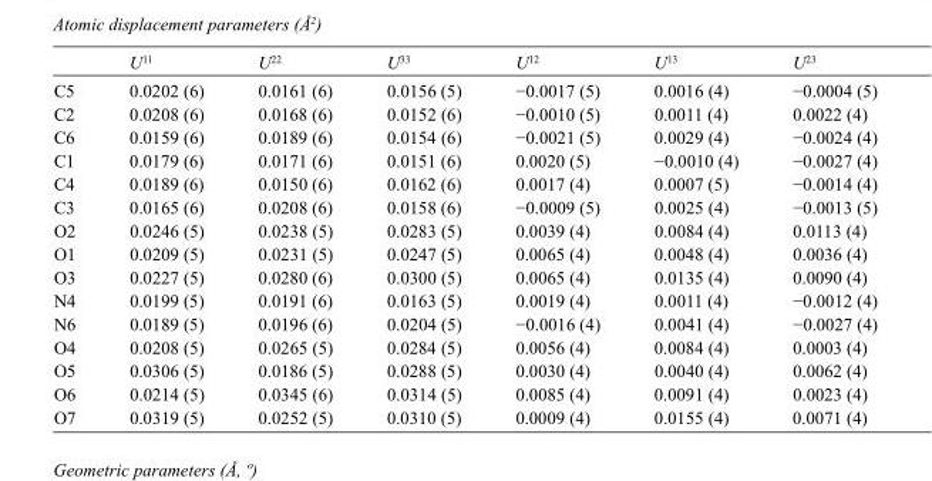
<table><thead><tr><td></td><td>U<sup>11</sup></td><td>U<sup>22</sup></td><td>U<sup>33</sup></td><td>U<sup>12</sup></td><td>U<sup>13</sup></td><td>U<sup>23</sup></td></tr></thead><tbody><tr><td>C5</td><td>0.0202 (6)</td><td>0.0161 (6)</td><td>0.0156 (5)</td><td>−0.0017 (5)</td><td>0.0016 (4)</td><td>−0.0004 (5)</td></tr><tr><td>C2</td><td>0.0208 (6)</td><td>0.0168 (6)</td><td>0.0152 (6)</td><td>−0.0010 (5)</td><td>0.0011 (4)</td><td>0.0022 (4)</td></tr><tr><td>C6</td><td>0.0159 (6)</td><td>0.0189 (6)</td><td>0.0154 (6)</td><td>−0.0021 (5)</td><td>0.0029 (4)</td><td>−0.0024 (4)</td></tr><tr><td>C1</td><td>0.0179 (6)</td><td>0.0171 (6)</td><td>0.0151 (6)</td><td>0.0020 (5)</td><td>−0.0010 (4)</td><td>−0.0027 (4)</td></tr><tr><td>C4</td><td>0.0189 (6)</td><td>0.0150 (6)</td><td>0.0162 (6)</td><td>0.0017 (4)</td><td>0.0007 (5)</td><td>−0.0014 (4)</td></tr><tr><td>C3</td><td>0.0165 (6)</td><td>0.0208 (6)</td><td>0.0158 (6)</td><td>−0.0009 (5)</td><td>0.0025 (4)</td><td>−0.0013 (5)</td></tr><tr><td>O2</td><td>0.0246 (5)</td><td>0.0238 (5)</td><td>0.0283 (5)</td><td>0.0039 (4)</td><td>0.0084 (4)</td><td>0.0113 (4)</td></tr><tr><td>O1</td><td>0.0209 (5)</td><td>0.0231 (5)</td><td>0.0247 (5)</td><td>0.0065 (4)</td><td>0.0048 (4)</td><td>0.0036 (4)</td></tr><tr><td>O3</td><td>0.0227 (5)</td><td>0.0280 (6)</td><td>0.0300 (5)</td><td>0.0065 (4)</td><td>0.0135 (4)</td><td>0.0090 (4)</td></tr><tr><td>N4</td><td>0.0199 (5)</td><td>0.0191 (6)</td><td>0.0163 (5)</td><td>0.0019 (4)</td><td>0.0011 (4)</td><td>−0.0012 (4)</td></tr><tr><td>N6</td><td>0.0189 (5)</td><td>0.0196 (6)</td><td>0.0204 (5)</td><td>−0.0016 (4)</td><td>0.0041 (4)</td><td>−0.0027 (4)</td></tr><tr><td>O4</td><td>0.0208 (5)</td><td>0.0265 (5)</td><td>0.0284 (5)</td><td>0.0056 (4)</td><td>0.0084 (4)</td><td>0.0003 (4)</td></tr><tr><td>O5</td><td>0.0306 (5)</td><td>0.0186 (5)</td><td>0.0288 (5)</td><td>0.0030 (4)</td><td>0.0040 (4)</td><td>0.0062 (4)</td></tr><tr><td>O6</td><td>0.0214 (5)</td><td>0.0345 (6)</td><td>0.0314 (5)</td><td>0.0085 (4)</td><td>0.0091 (4)</td><td>0.0023 (4)</td></tr><tr><td>O7</td><td>0.0319 (5)</td><td>0.0252 (5)</td><td>0.0310 (5)</td><td>0.0009 (4)</td><td>0.0155 (4)</td><td>0.0071 (4)</td></tr></tbody></table>